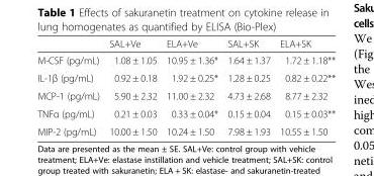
<table><thead><tr><td></td><td>SAL+Ve</td><td>ELA+Ve</td><td>SAL+SK</td><td>ELA+SK</td></tr></thead><tbody><tr><td>M-CSF (pg/mL)</td><td>1.08 ± 1.05</td><td>10.95 ± 1.36*</td><td>1.64 ± 1.37</td><td>1.72 ± 1.18**</td></tr><tr><td>IL-1β (pg/mL)</td><td>0.92 ± 0.18</td><td>1.92 ± 0.25*</td><td>1.28 ± 0.25</td><td>0.82 ± 0.22**</td></tr><tr><td>MCP-1 (pg/mL)</td><td>5.90 ± 2.32</td><td>11.00 ± 2.32</td><td>4.73 ± 2.68</td><td>8.77 ± 2.32</td></tr><tr><td>TNFα (pg/mL)</td><td>0.21 ± 0.03</td><td>0.33 ± 0.04*</td><td>0.15 ± 0.04</td><td>0.15 ± 0.03**</td></tr><tr><td>MIP-2 (pg/mL)</td><td>10.00 ± 1.50</td><td>10.24 ± 1.50</td><td>7.98 ± 1.93</td><td>10.55 ± 1.50</td></tr></tbody></table>